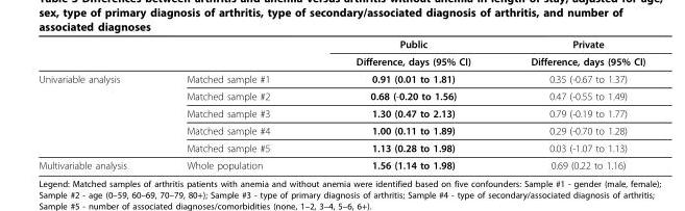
<table><thead><tr><td rowspan="2"></td><td rowspan="2"></td><td rowspan="2">Public Difference, days (95% CI)</td><td rowspan="2">Private Difference, days (95% CI)</td></tr><tr></tr></thead><tbody><tr><td rowspan="5">Univariable analysis</td><td>Matched sample #1</td><td>0.91 (0.01 to 1.81)</td><td>0.35 (-0.67 to 1.37)</td></tr><tr><td>Matched sample #2</td><td>0.68 (-0.20 to 1.56)</td><td>0.47 (-0.55 to 1.49)</td></tr><tr><td>Matched sample #3</td><td>1.30 (0.47 to 2.13)</td><td>0.79 (-0.19 to 1.77)</td></tr><tr><td>Matched sample #4</td><td>1.00 (0.11 to 1.89)</td><td>0.29 (-0.70 to 1.28)</td></tr><tr><td>Matched sample #5</td><td>1.13 (0.28 to 1.98)</td><td>0.03 (-1.07 to 1.13)</td></tr><tr><td>Multivariable analysis</td><td>Whole population</td><td>1.56 (1.14 to 1.98)</td><td>0.69 (0.22 to 1.16)</td></tr></tbody></table>